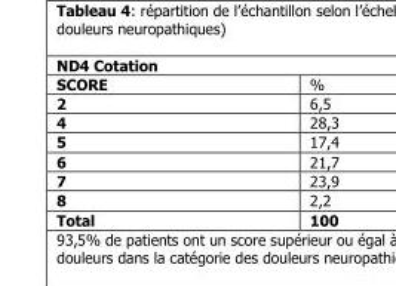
<table><thead><tr><td colspan="2">ND4 Cotation</td></tr><tr><td>SCORE</td><td>%</td></tr></thead><tbody><tr><td>2</td><td>6,5</td></tr><tr><td>4</td><td>28,3</td></tr><tr><td>5</td><td>17,4</td></tr><tr><td>6</td><td>21,7</td></tr><tr><td>7</td><td>23,9</td></tr><tr><td>8</td><td>2,2</td></tr><tr><td>Total</td><td>100</td></tr></tbody></table>